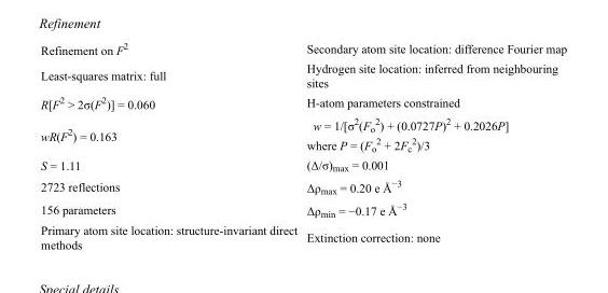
<table><tbody><tr><td>Refinement on F<sup>2</sup></td><td>Secondary atom site location: difference Fourier map</td></tr><tr><td>Least-squares matrix: full</td><td>Hydrogen site location: inferred from neighbouring sites</td></tr><tr><td>R[F<sup>2</sup> &gt; 2σ(F<sup>2</sup>)] = 0.060</td><td>H-atom parameters constrained</td></tr><tr><td>wR(F<sup>2</sup>) = 0.163</td><td>w = 1/[σ<sup>2</sup>(F<sub>o</sub> <sup>2</sup>) + (0.0727P)<sup>2</sup> + 0.2026P] where P = (F<sub>o</sub> <sup>2</sup> + 2F<sub>c</sub> <sup>2</sup>)/3</td></tr><tr><td>S = 1.11</td><td>(Δ/σ)<sub>max</sub> = 0.001</td></tr><tr><td>2723 reflections</td><td>Δρ<sub>max</sub> = 0.20 e Å<sup>−3</sup></td></tr><tr><td>156 parameters</td><td>Δρ<sub>min</sub> = −0.17 e Å<sup>−3</sup></td></tr><tr><td>Primary atom site location: structure-invariant direct methods</td><td>Extinction correction: none</td></tr></tbody></table>